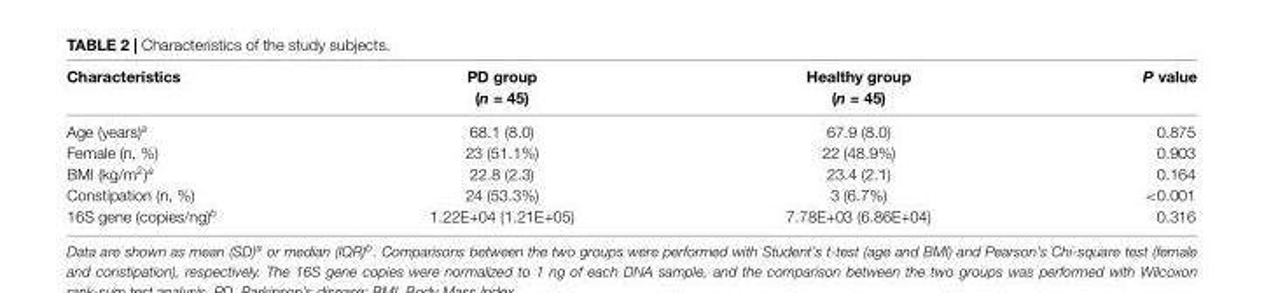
<table><thead><tr><td rowspan="2">Characteristics</td><td rowspan="2">PD group (n = 45)</td><td rowspan="2">Healthy group (n = 45)</td><td rowspan="2">P value</td></tr><tr></tr></thead><tbody><tr><td>Age (years)<sup>a</sup></td><td>68.1 (8.0)</td><td>67.9 (8.0)</td><td>0.875</td></tr><tr><td>Female (n, %)</td><td>23 (51.1%)</td><td>22 (48.9%)</td><td>0.903</td></tr><tr><td>BMI (kg/m<sup>2</sup>)<sup>a</sup></td><td>22.8 (2.3)</td><td>23.4 (2.1)</td><td>0.164</td></tr><tr><td>Constipation (n, %)</td><td>24 (53.3%)</td><td>3 (6.7%)</td><td>&lt;0.001</td></tr><tr><td>16S gene (copies/ng)<sup>b</sup></td><td>1.22E+04 (1.21E+05)</td><td>7.78E+03 (6.86E+04)</td><td>0.316</td></tr></tbody></table>